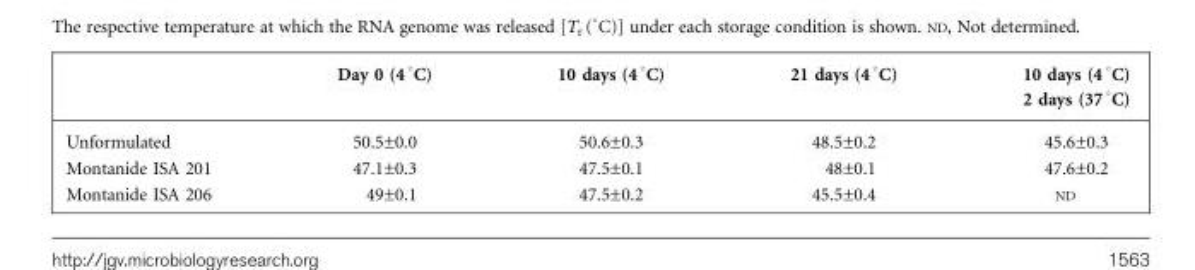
<table><thead><tr><td></td><td>Day 0 (4 °C)</td><td>10 days (4 °C)</td><td>21 days (4 °C)</td><td>10 days (4 °C) 2 days (37 °C)</td></tr></thead><tbody><tr><td>Unformulated</td><td>50.5±0.0</td><td>50.6±0.3</td><td>48.5±0.2</td><td>45.6±0.3</td></tr><tr><td>Montanide ISA 201</td><td>47.1±0.3</td><td>47.5±0.1</td><td>48±0.1</td><td>47.6±0.2</td></tr><tr><td>Montanide ISA 206</td><td>49±0.1</td><td>47.5±0.2</td><td>45.5±0.4</td><td>ND</td></tr></tbody></table>